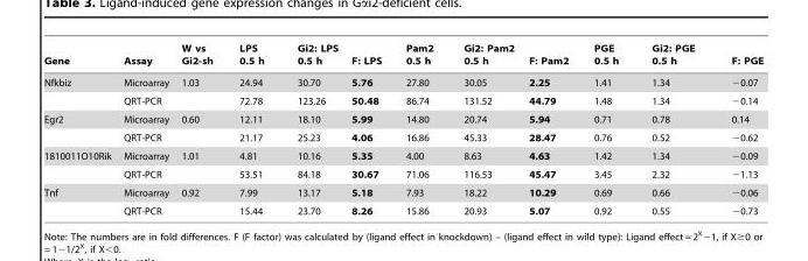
<table><thead><tr><td>Gene</td><td>Assay</td><td>W vs Gi2-sh</td><td>LPS 0.5 h</td><td>Gi2: LPS 0.5 h</td><td>F: LPS</td><td>Pam2 0.5 h</td><td>Gi2: Pam2 0.5 h</td><td>F: Pam2</td><td>PGE 0.5 h</td><td>Gi2: PGE 0.5 h</td><td>F: PGE</td></tr></thead><tbody><tr><td rowspan="2">Nfkbiz</td><td>Microarray</td><td>1.03</td><td>24.94</td><td>30.70</td><td>5.76</td><td>27.80</td><td>30.05</td><td>2.25</td><td>1.41</td><td>1.34</td><td>−0.07</td></tr><tr><td>QRT-PCR</td><td></td><td>72.78</td><td>123.26</td><td>50.48</td><td>86.74</td><td>131.52</td><td>44.79</td><td>1.48</td><td>1.34</td><td>−0.14</td></tr><tr><td rowspan="2">Egr2</td><td>Microarray</td><td>0.60</td><td>12.11</td><td>18.10</td><td>5.99</td><td>14.80</td><td>20.74</td><td>5.94</td><td>0.71</td><td>0.78</td><td>0.14</td></tr><tr><td>QRT-PCR</td><td></td><td>21.17</td><td>25.23</td><td>4.06</td><td>16.86</td><td>45.33</td><td>28.47</td><td>0.76</td><td>0.52</td><td>−0.62</td></tr><tr><td rowspan="2">1810011O10Rik</td><td>Microarray</td><td>1.01</td><td>4.81</td><td>10.16</td><td>5.35</td><td>4.00</td><td>8.63</td><td>4.63</td><td>1.42</td><td>1.34</td><td>−0.09</td></tr><tr><td>QRT-PCR</td><td></td><td>53.51</td><td>84.18</td><td>30.67</td><td>71.06</td><td>116.53</td><td>45.47</td><td>3.45</td><td>2.32</td><td>−1.13</td></tr><tr><td rowspan="2">Tnf</td><td>Microarray</td><td>0.92</td><td>7.99</td><td>13.17</td><td>5.18</td><td>7.93</td><td>18.22</td><td>10.29</td><td>0.69</td><td>0.66</td><td>−0.06</td></tr><tr><td>QRT-PCR</td><td></td><td>15.44</td><td>23.70</td><td>8.26</td><td>15.86</td><td>20.93</td><td>5.07</td><td>0.92</td><td>0.55</td><td>−0.73</td></tr></tbody></table>